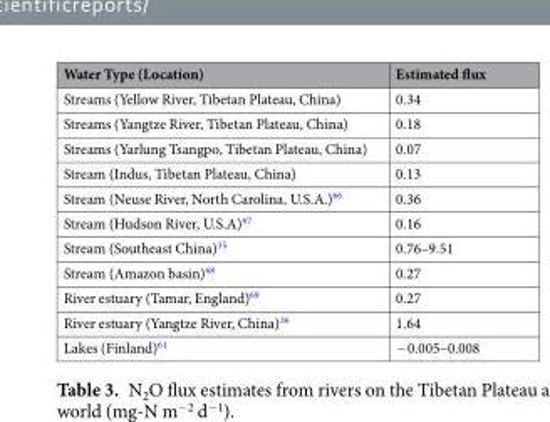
<table><thead><tr><td>Water Type (Location)</td><td>Estimated flux</td></tr></thead><tbody><tr><td>Streams (Yellow River, Tibetan Plateau, China)</td><td>0.34</td></tr><tr><td>Streams (Yangtze River, Tibetan Plateau, China)</td><td>0.18</td></tr><tr><td>Streams (Yarlung Tsangpo, Tibetan Plateau, China)</td><td>0.07</td></tr><tr><td>Stream (Indus, Tibetan Plateau, China)</td><td>0.13</td></tr><tr><td>Stream (Neuse River, North Carolina, U.S.A.)<sup>66</sup></td><td>0.36</td></tr><tr><td>Stream (Hudson River, U.S.A)<sup>67</sup></td><td>0.16</td></tr><tr><td>Stream (Southeast China)<sup>35</sup></td><td>0.76–9.51</td></tr><tr><td>Stream (Amazon basin)<sup>68</sup></td><td>0.27</td></tr><tr><td>River estuary (Tamar, England)<sup>69</sup></td><td>0.27</td></tr><tr><td>River estuary (Yangtze River, China)<sup>36</sup></td><td>1.64</td></tr><tr><td>Lakes (Finland)<sup>61</sup></td><td>−0.005–0.008</td></tr></tbody></table>